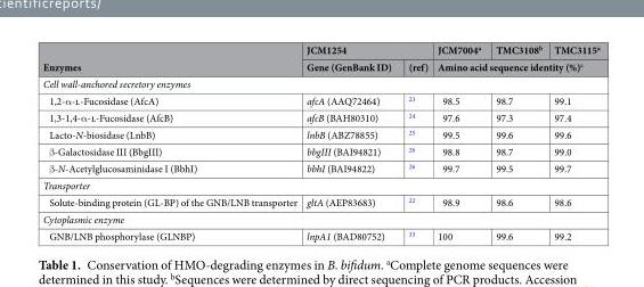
<table><thead><tr><td rowspan="2">Enzymes</td><td colspan="2">JCM1254</td><td>JCM7004<sup>a</sup></td><td>TMC3108<sup>b</sup></td><td>TMC3115<sup>a</sup></td></tr><tr><td>Gene (GenBank ID)</td><td>(ref)</td><td colspan="3">Amino acid sequence identity (%)<sup>c</sup></td></tr></thead><tbody><tr><td colspan="6">Cell wall-anchored secretory enzymes</td></tr><tr><td>1,2-α-l-Fucosidase (AfcA)</td><td>afcA (AAQ72464)</td><td><sup>23</sup></td><td>98.5</td><td>98.7</td><td>99.1</td></tr><tr><td>1,3-1,4-α-l-Fucosidase (AfcB)</td><td>afcB (BAH80310)</td><td><sup>24</sup></td><td>97.6</td><td>97.3</td><td>97.4</td></tr><tr><td>Lacto-N-biosidase (LnbB)</td><td>lnbB (ABZ78855)</td><td><sup>25</sup></td><td>99.5</td><td>99.6</td><td>99.6</td></tr><tr><td>β-Galactosidase III (BbgIII)</td><td>bbgIII (BAI94821)</td><td><sup>26</sup></td><td>98.8</td><td>98.7</td><td>99.0</td></tr><tr><td>β-N-Acetylglucosaminidase I (BbhI)</td><td>bbhI (BAI94822)</td><td><sup>26</sup></td><td>99.7</td><td>99.5</td><td>99.7</td></tr><tr><td colspan="6">Transporter</td></tr><tr><td>Solute-binding protein (GL-BP) of the GNB/LNB transporter</td><td>gltA (AEP83683)</td><td><sup>22</sup></td><td>98.9</td><td>98.6</td><td>98.6</td></tr><tr><td colspan="6">Cytoplasmic enzyme</td></tr><tr><td>GNB/LNB phosphorylase (GLNBP)</td><td>lnpA1 (BAD80752)</td><td><sup>33</sup></td><td>100</td><td>99.6</td><td>99.2</td></tr></tbody></table>